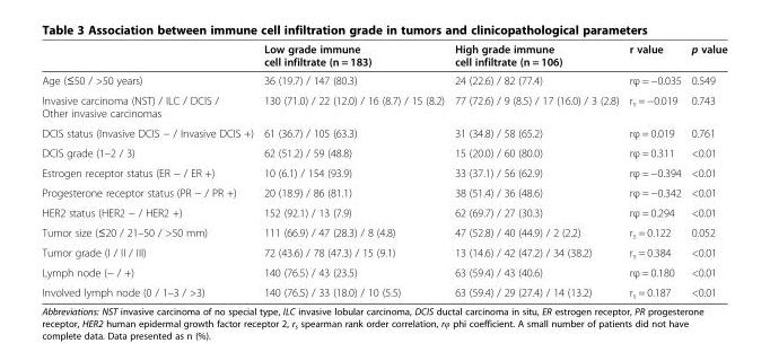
<table><thead><tr><td></td><td>Low grade immune cell infiltrate (n = 183)</td><td>High grade immune cell infiltrate (n = 106)</td><td>r value</td><td>p value</td></tr></thead><tbody><tr><td>Age (≤50 / &gt;50 years)</td><td>36 (19.7) / 147 (80.3)</td><td>24 (22.6) / 82 (77.4)</td><td>rφ = −0.035</td><td>0.549</td></tr><tr><td>Invasive carcinoma (NST) / ILC / DCIS / Other invasive carcinomas</td><td>130 (71.0) / 22 (12.0) / 16 (8.7) / 15 (8.2)</td><td>77 (72.6) / 9 (8.5) / 17 (16.0) / 3 (2.8)</td><td>r<sub>s</sub> = −0.019</td><td>0.743</td></tr><tr><td>DCIS status (Invasive DCIS − / Invasive DCIS +)</td><td>61 (36.7) / 105 (63.3)</td><td>31 (34.8) / 58 (65.2)</td><td>rφ = 0.019</td><td>0.761</td></tr><tr><td>DCIS grade (1–2 / 3)</td><td>62 (51.2) / 59 (48.8)</td><td>15 (20.0) / 60 (80.0)</td><td>rφ = 0.311</td><td>&lt;0.01</td></tr><tr><td>Estrogen receptor status (ER − / ER +)</td><td>10 (6.1) / 154 (93.9)</td><td>33 (37.1) / 56 (62.9)</td><td>rφ = −0.394</td><td>&lt;0.01</td></tr><tr><td>Progesterone receptor status (PR − / PR +)</td><td>20 (18.9) / 86 (81.1)</td><td>38 (51.4) / 36 (48.6)</td><td>rφ = −0.342</td><td>&lt;0.01</td></tr><tr><td>HER2 status (HER2 − / HER2 +)</td><td>152 (92.1) / 13 (7.9)</td><td>62 (69.7) / 27 (30.3)</td><td>rφ = 0.294</td><td>&lt;0.01</td></tr><tr><td>Tumor size (≤20 / 21–50 / &gt;50 mm)</td><td>111 (66.9) / 47 (28.3) / 8 (4.8)</td><td>47 (52.8) / 40 (44.9) / 2 (2.2)</td><td>r<sub>s</sub> = 0.122</td><td>0.052</td></tr><tr><td>Tumor grade (I / II / III)</td><td>72 (43.6) / 78 (47.3) / 15 (9.1)</td><td>13 (14.6) / 42 (47.2) / 34 (38.2)</td><td>r<sub>s</sub> = 0.384</td><td>&lt;0.01</td></tr><tr><td>Lymph node (− / +)</td><td>140 (76.5) / 43 (23.5)</td><td>63 (59.4) / 43 (40.6)</td><td>rφ = 0.180</td><td>&lt;0.01</td></tr><tr><td>Involved lymph node (0 / 1–3 / &gt;3)</td><td>140 (76.5) / 33 (18.0) / 10 (5.5)</td><td>63 (59.4) / 29 (27.4) / 14 (13.2)</td><td>r<sub>s</sub> = 0.187</td><td>&lt;0.01</td></tr></tbody></table>